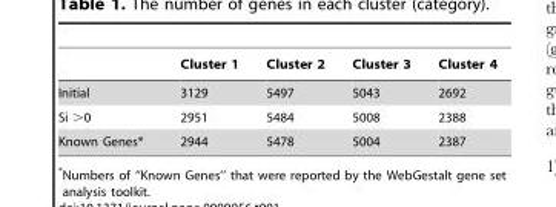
<table><thead><tr><td></td><td>Cluster 1</td><td>Cluster 2</td><td>Cluster 3</td><td>Cluster 4</td></tr></thead><tbody><tr><td>Initial</td><td>3129</td><td>5497</td><td>5043</td><td>2692</td></tr><tr><td>Si &gt;0</td><td>2951</td><td>5484</td><td>5008</td><td>2388</td></tr><tr><td>Known Genes*</td><td>2944</td><td>5478</td><td>5004</td><td>2387</td></tr></tbody></table>